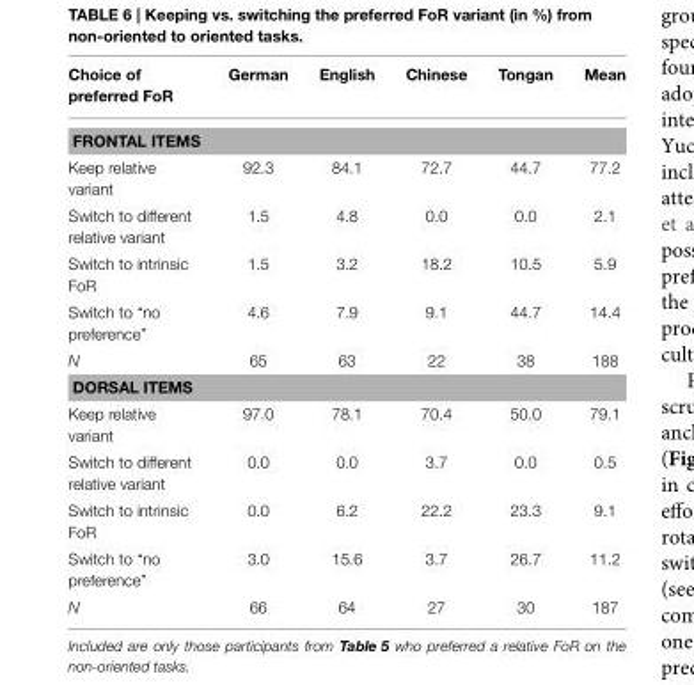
<table><thead><tr><td>Choice of preferred FoR</td><td>German</td><td>English</td><td>Chinese</td><td>Tongan</td><td>Mean</td></tr></thead><tbody><tr><td colspan="6">FRONTAL ITEMS</td></tr><tr><td>Keep relative variant</td><td>92.3</td><td>84.1</td><td>72.7</td><td>44.7</td><td>77.2</td></tr><tr><td>Switch to different relative variant</td><td>1.5</td><td>4.8</td><td>0.0</td><td>0.0</td><td>2.1</td></tr><tr><td>Switch to intrinsic FoR</td><td>1.5</td><td>3.2</td><td>18.2</td><td>10.5</td><td>5.9</td></tr><tr><td>Switch to “no preference”</td><td>4.6</td><td>7.9</td><td>9.1</td><td>44.7</td><td>14.4</td></tr><tr><td>N</td><td>65</td><td>63</td><td>22</td><td>38</td><td>188</td></tr><tr><td colspan="6">DORSAL ITEMS</td></tr><tr><td>Keep relative variant</td><td>97.0</td><td>78.1</td><td>70.4</td><td>50.0</td><td>79.1</td></tr><tr><td>Switch to different relative variant</td><td>0.0</td><td>0.0</td><td>3.7</td><td>0.0</td><td>0.5</td></tr><tr><td>Switch to intrinsic FoR</td><td>0.0</td><td>6.2</td><td>22.2</td><td>23.3</td><td>9.1</td></tr><tr><td>Switch to “no preference”</td><td>3.0</td><td>15.6</td><td>3.7</td><td>26.7</td><td>11.2</td></tr><tr><td>N</td><td>66</td><td>64</td><td>27</td><td>30</td><td>187</td></tr></tbody></table>